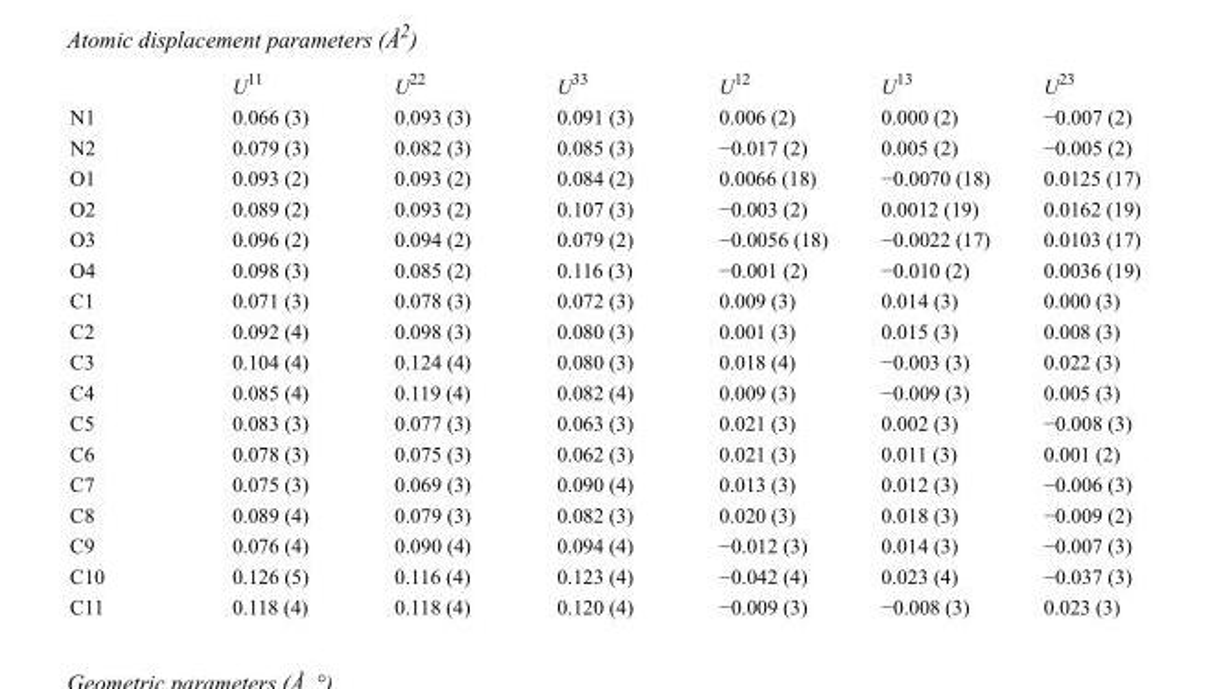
<table><thead><tr><td></td><td>U<sup>11</sup></td><td>U<sup>22</sup></td><td>U<sup>33</sup></td><td>U<sup>12</sup></td><td>U<sup>13</sup></td><td>U<sup>23</sup></td></tr></thead><tbody><tr><td>N1</td><td>0.066 (3)</td><td>0.093 (3)</td><td>0.091 (3)</td><td>0.006 (2)</td><td>0.000 (2)</td><td>−0.007 (2)</td></tr><tr><td>N2</td><td>0.079 (3)</td><td>0.082 (3)</td><td>0.085 (3)</td><td>−0.017 (2)</td><td>0.005 (2)</td><td>−0.005 (2)</td></tr><tr><td>O1</td><td>0.093 (2)</td><td>0.093 (2)</td><td>0.084 (2)</td><td>0.0066 (18)</td><td>−0.0070 (18)</td><td>0.0125 (17)</td></tr><tr><td>O2</td><td>0.089 (2)</td><td>0.093 (2)</td><td>0.107 (3)</td><td>−0.003 (2)</td><td>0.0012 (19)</td><td>0.0162 (19)</td></tr><tr><td>O3</td><td>0.096 (2)</td><td>0.094 (2)</td><td>0.079 (2)</td><td>−0.0056 (18)</td><td>−0.0022 (17)</td><td>0.0103 (17)</td></tr><tr><td>O4</td><td>0.098 (3)</td><td>0.085 (2)</td><td>0.116 (3)</td><td>−0.001 (2)</td><td>−0.010 (2)</td><td>0.0036 (19)</td></tr><tr><td>C1</td><td>0.071 (3)</td><td>0.078 (3)</td><td>0.072 (3)</td><td>0.009 (3)</td><td>0.014 (3)</td><td>0.000 (3)</td></tr><tr><td>C2</td><td>0.092 (4)</td><td>0.098 (3)</td><td>0.080 (3)</td><td>0.001 (3)</td><td>0.015 (3)</td><td>0.008 (3)</td></tr><tr><td>C3</td><td>0.104 (4)</td><td>0.124 (4)</td><td>0.080 (3)</td><td>0.018 (4)</td><td>−0.003 (3)</td><td>0.022 (3)</td></tr><tr><td>C4</td><td>0.085 (4)</td><td>0.119 (4)</td><td>0.082 (4)</td><td>0.009 (3)</td><td>−0.009 (3)</td><td>0.005 (3)</td></tr><tr><td>C5</td><td>0.083 (3)</td><td>0.077 (3)</td><td>0.063 (3)</td><td>0.021 (3)</td><td>0.002 (3)</td><td>−0.008 (3)</td></tr><tr><td>C6</td><td>0.078 (3)</td><td>0.075 (3)</td><td>0.062 (3)</td><td>0.021 (3)</td><td>0.011 (3)</td><td>0.001 (2)</td></tr><tr><td>C7</td><td>0.075 (3)</td><td>0.069 (3)</td><td>0.090 (4)</td><td>0.013 (3)</td><td>0.012 (3)</td><td>−0.006 (3)</td></tr><tr><td>C8</td><td>0.089 (4)</td><td>0.079 (3)</td><td>0.082 (3)</td><td>0.020 (3)</td><td>0.018 (3)</td><td>−0.009 (2)</td></tr><tr><td>C9</td><td>0.076 (4)</td><td>0.090 (4)</td><td>0.094 (4)</td><td>−0.012 (3)</td><td>0.014 (3)</td><td>−0.007 (3)</td></tr><tr><td>C10</td><td>0.126 (5)</td><td>0.116 (4)</td><td>0.123 (4)</td><td>−0.042 (4)</td><td>0.023 (4)</td><td>−0.037 (3)</td></tr><tr><td>C11</td><td>0.118 (4)</td><td>0.118 (4)</td><td>0.120 (4)</td><td>−0.009 (3)</td><td>−0.008 (3)</td><td>0.023 (3)</td></tr></tbody></table>